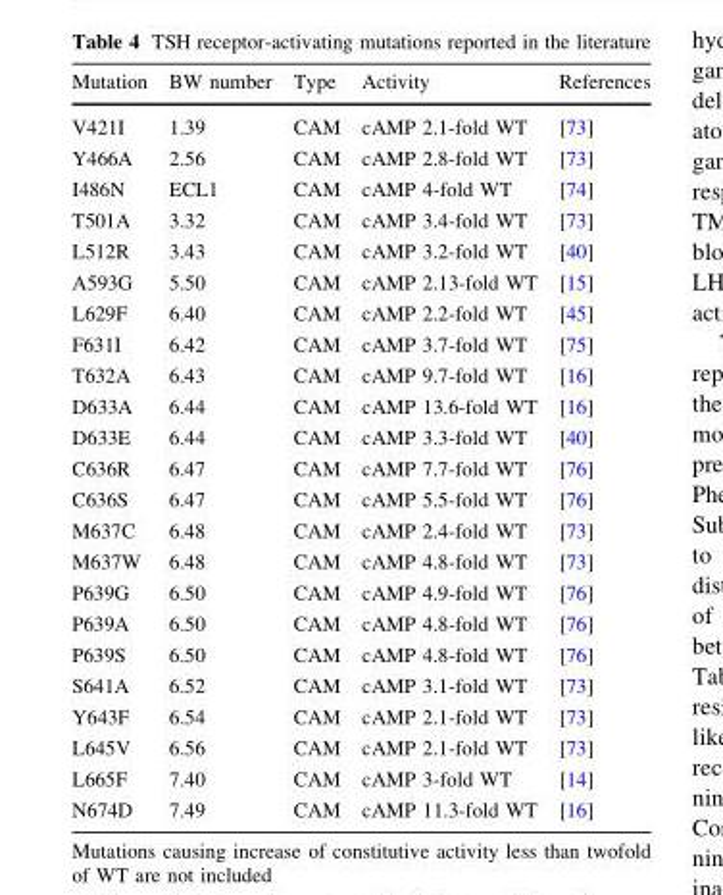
<table><thead><tr><td>Mutation</td><td>BW number</td><td>Type</td><td>Activity</td><td>References</td></tr></thead><tbody><tr><td>V421I</td><td>1.39</td><td>CAM</td><td>cAMP 2.1-fold WT</td><td>[73]</td></tr><tr><td>Y466A</td><td>2.56</td><td>CAM</td><td>cAMP 2.8-fold WT</td><td>[73]</td></tr><tr><td>I486N</td><td>ECL1</td><td>CAM</td><td>cAMP 4-fold WT</td><td>[74]</td></tr><tr><td>T501A</td><td>3.32</td><td>CAM</td><td>cAMP 3.4-fold WT</td><td>[73]</td></tr><tr><td>L512R</td><td>3.43</td><td>CAM</td><td>cAMP 3.2-fold WT</td><td>[40]</td></tr><tr><td>A593G</td><td>5.50</td><td>CAM</td><td>cAMP 2.13-fold WT</td><td>[15]</td></tr><tr><td>L629F</td><td>6.40</td><td>CAM</td><td>cAMP 2.2-fold WT</td><td>[45]</td></tr><tr><td>F631I</td><td>6.42</td><td>CAM</td><td>cAMP 3.7-fold WT</td><td>[75]</td></tr><tr><td>T632A</td><td>6.43</td><td>CAM</td><td>cAMP 9.7-fold WT</td><td>[16]</td></tr><tr><td>D633A</td><td>6.44</td><td>CAM</td><td>cAMP 13.6-fold WT</td><td>[16]</td></tr><tr><td>D633E</td><td>6.44</td><td>CAM</td><td>cAMP 3.3-fold WT</td><td>[40]</td></tr><tr><td>C636R</td><td>6.47</td><td>CAM</td><td>cAMP 7.7-fold WT</td><td>[76]</td></tr><tr><td>C636S</td><td>6.47</td><td>CAM</td><td>cAMP 5.5-fold WT</td><td>[76]</td></tr><tr><td>M637C</td><td>6.48</td><td>CAM</td><td>cAMP 2.4-fold WT</td><td>[73]</td></tr><tr><td>M637W</td><td>6.48</td><td>CAM</td><td>cAMP 4.8-fold WT</td><td>[73]</td></tr><tr><td>P639G</td><td>6.50</td><td>CAM</td><td>cAMP 4.9-fold WT</td><td>[76]</td></tr><tr><td>P639A</td><td>6.50</td><td>CAM</td><td>cAMP 4.8-fold WT</td><td>[76]</td></tr><tr><td>P639S</td><td>6.50</td><td>CAM</td><td>cAMP 4.8-fold WT</td><td>[76]</td></tr><tr><td>S641A</td><td>6.52</td><td>CAM</td><td>cAMP 3.1-fold WT</td><td>[73]</td></tr><tr><td>Y643F</td><td>6.54</td><td>CAM</td><td>cAMP 2.1-fold WT</td><td>[73]</td></tr><tr><td>L645V</td><td>6.56</td><td>CAM</td><td>cAMP 2.1-fold WT</td><td>[73]</td></tr><tr><td>L665F</td><td>7.40</td><td>CAM</td><td>cAMP 3-fold WT</td><td>[14]</td></tr><tr><td>N674D</td><td>7.49</td><td>CAM</td><td>cAMP 11.3-fold WT</td><td>[16]</td></tr></tbody></table>